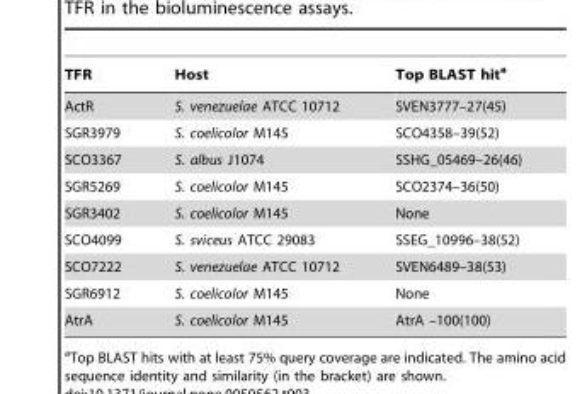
<table><thead><tr><td>TFR</td><td>Host</td><td>Top BLAST hit<sup>a</sup></td></tr></thead><tbody><tr><td>ActR</td><td>S. venezuelae ATCC 10712</td><td>SVEN3777–27(45)</td></tr><tr><td>SGR3979</td><td>S. coelicolor M145</td><td>SCO4358–39(52)</td></tr><tr><td>SCO3367</td><td>S. albus J1074</td><td>SSHG_05469–26(46)</td></tr><tr><td>SGR5269</td><td>S. coelicolor M145</td><td>SCO2374–36(50)</td></tr><tr><td>SGR3402</td><td>S. coelicolor M145</td><td>None</td></tr><tr><td>SCO4099</td><td>S. sviceus ATCC 29083</td><td>SSEG_10996–38(52)</td></tr><tr><td>SCO7222</td><td>S. venezuelae ATCC 10712</td><td>SVEN6489–38(53)</td></tr><tr><td>SGR6912</td><td>S. coelicolor M145</td><td>None</td></tr><tr><td>AtrA</td><td>S. coelicolor M145</td><td>AtrA –100(100)</td></tr></tbody></table>